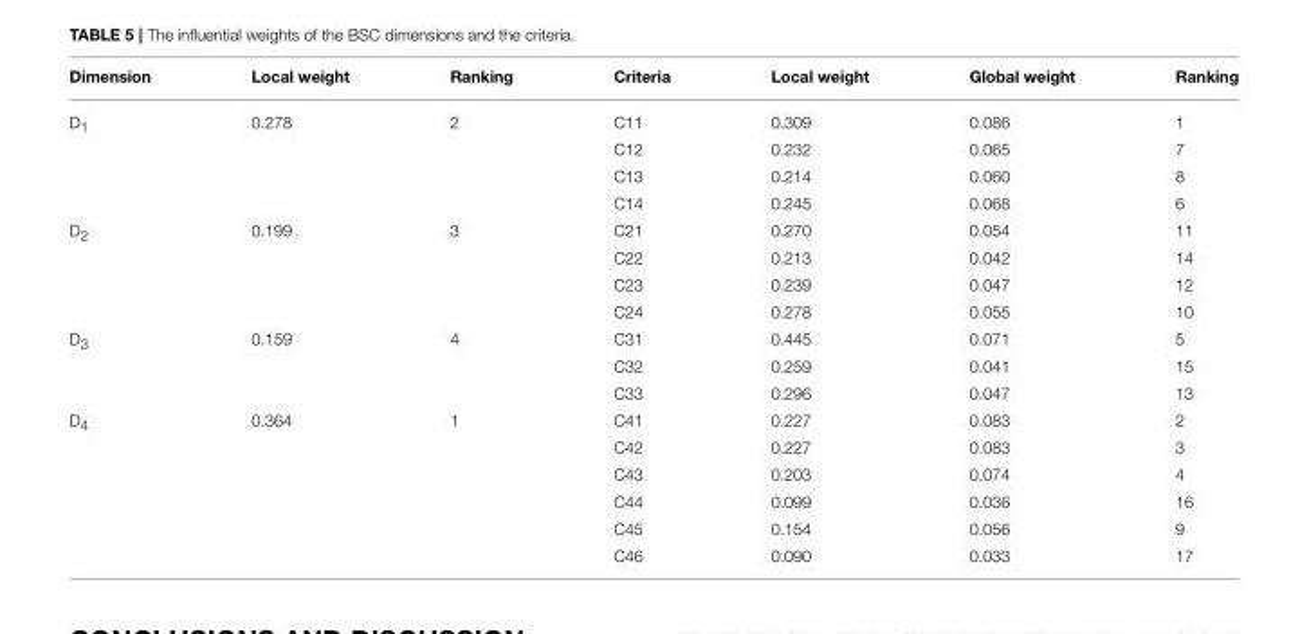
<table><thead><tr><td>Dimension</td><td>Local weight</td><td>Ranking</td><td>Criteria</td><td>Local weight</td><td>Global weight</td><td>Ranking</td></tr></thead><tbody><tr><td rowspan="4">D<sub>1</sub></td><td>0.278</td><td>2</td><td>C11</td><td>0.309</td><td>0.086</td><td>1</td></tr><tr><td></td><td></td><td>C12</td><td>0.232</td><td>0.065</td><td>7</td></tr><tr><td></td><td></td><td>C13</td><td>0.214</td><td>0.060</td><td>8</td></tr><tr><td></td><td></td><td>C14</td><td>0.245</td><td>0.068</td><td>6</td></tr><tr><td rowspan="4">D<sub>2</sub></td><td>0.199</td><td>3</td><td>C21</td><td>0.270</td><td>0.054</td><td>11</td></tr><tr><td></td><td></td><td>C22</td><td>0.213</td><td>0.042</td><td>14</td></tr><tr><td></td><td></td><td>C23</td><td>0.239</td><td>0.047</td><td>12</td></tr><tr><td></td><td></td><td>C24</td><td>0.278</td><td>0.055</td><td>10</td></tr><tr><td rowspan="3">D<sub>3</sub></td><td>0.159</td><td>4</td><td>C31</td><td>0.445</td><td>0.071</td><td>5</td></tr><tr><td></td><td></td><td>C32</td><td>0.259</td><td>0.041</td><td>15</td></tr><tr><td></td><td></td><td>C33</td><td>0.296</td><td>0.047</td><td>13</td></tr><tr><td rowspan="6">D<sub>4</sub></td><td>0.364</td><td>1</td><td>C41</td><td>0.227</td><td>0.083</td><td>2</td></tr><tr><td></td><td></td><td>C42</td><td>0.227</td><td>0.083</td><td>3</td></tr><tr><td></td><td></td><td>C43</td><td>0.203</td><td>0.074</td><td>4</td></tr><tr><td></td><td></td><td>C44</td><td>0.099</td><td>0.036</td><td>16</td></tr><tr><td></td><td></td><td>C45</td><td>0.154</td><td>0.056</td><td>9</td></tr><tr><td></td><td></td><td>C46</td><td>0.090</td><td>0.033</td><td>17</td></tr></tbody></table>